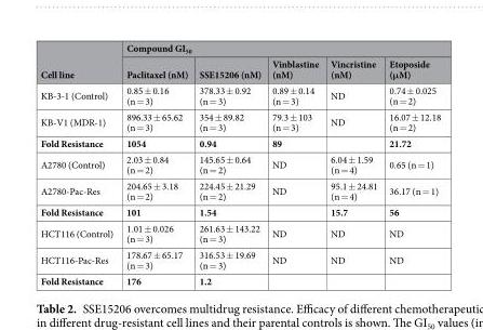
<table><thead><tr><td rowspan="2">Cell line</td><td colspan="5">Compound GI<sub>50</sub></td></tr><tr><td>Paclitaxel (nM)</td><td>SSE15206 (nM)</td><td>Vinblastine (nM)</td><td>Vincristine (nM)</td><td>Etoposide (μM)</td></tr></thead><tbody><tr><td>KB-3-1 (Control)</td><td>0.85 ± 0.16 (n = 3)</td><td>378.33 ± 0.92 (n = 3)</td><td>0.89 ± 0.14 (n = 3)</td><td>ND</td><td>0.74 ± 0.025 (n = 2)</td></tr><tr><td>KB-V1 (MDR-1)</td><td>896.33 ± 65.62 (n = 3)</td><td>354 ± 89.82 (n = 3)</td><td>79.3 ± 103 (n = 3)</td><td>ND</td><td>16.07 ± 12.18 (n = 2)</td></tr><tr><td>Fold Resistance</td><td>1054</td><td>0.94</td><td>89</td><td></td><td>21.72</td></tr><tr><td>A2780 (Control)</td><td>2.03 ± 0.84 (n = 2)</td><td>145.65 ± 0.64 (n = 2)</td><td>ND</td><td>6.04 ± 1.59 (n = 4)</td><td>0.65 (n = 1)</td></tr><tr><td>A2780-Pac-Res</td><td>204.65 ± 3.18 (n = 2)</td><td>224.45 ± 21.29 (n = 2)</td><td>ND</td><td>95.1 ± 24.81 (n = 4)</td><td>36.17 (n = 1)</td></tr><tr><td>Fold Resistance</td><td>101</td><td>1.54</td><td></td><td>15.7</td><td>56</td></tr><tr><td>HCT116 (Control)</td><td>1.01 ± 0.026 (n = 3)</td><td>261.63 ± 143.22 (n = 3)</td><td>ND</td><td>ND</td><td>ND</td></tr><tr><td>HCT116-Pac-Res</td><td>178.67 ± 65.17 (n = 3)</td><td>316.53 ± 19.69 (n = 3)</td><td>ND</td><td>ND</td><td>ND</td></tr><tr><td>Fold Resistance</td><td>176</td><td>1.2</td><td></td><td></td><td></td></tr></tbody></table>